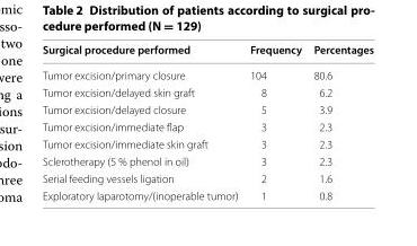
<table><thead><tr><td>Surgical procedure performed</td><td>Frequency</td><td>Percentages</td></tr></thead><tbody><tr><td>Tumor excision/primary closure</td><td>104</td><td>80.6</td></tr><tr><td>Tumor excision/delayed skin graft</td><td>8</td><td>6.2</td></tr><tr><td>Tumor excision/delayed closure</td><td>5</td><td>3.9</td></tr><tr><td>Tumor excision/immediate flap</td><td>3</td><td>2.3</td></tr><tr><td>Tumor excision/immediate skin graft</td><td>3</td><td>2.3</td></tr><tr><td>Sclerotherapy (5 % phenol in oil)</td><td>3</td><td>2.3</td></tr><tr><td>Serial feeding vessels ligation</td><td>2</td><td>1.6</td></tr><tr><td>Exploratory laparotomy/(inoperable tumor)</td><td>1</td><td>0.8</td></tr></tbody></table>